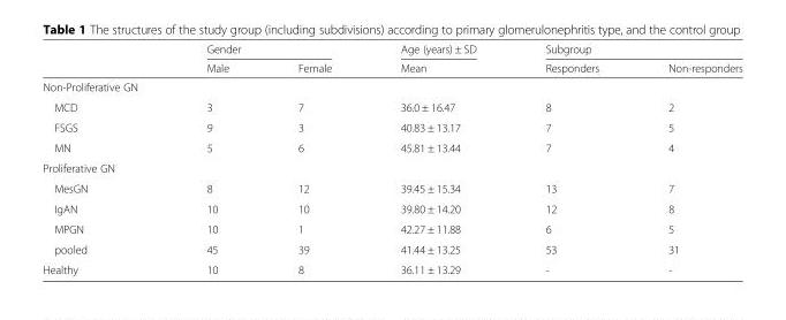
<table><thead><tr><td rowspan="2"></td><td colspan="2">Gender</td><td rowspan="2">Age (years) ± SD Mean</td><td colspan="2">Subgroup</td></tr><tr><td>Male</td><td>Female</td><td>Responders</td><td>Non-responders</td></tr></thead><tbody><tr><td colspan="6">Non-Proliferative GN</td></tr><tr><td>MCD</td><td>3</td><td>7</td><td>36.0 ± 16.47</td><td>8</td><td>2</td></tr><tr><td>FSGS</td><td>9</td><td>3</td><td>40.83 ± 13.17</td><td>7</td><td>5</td></tr><tr><td>MN</td><td>5</td><td>6</td><td>45.81 ± 13.44</td><td>7</td><td>4</td></tr><tr><td colspan="6">Proliferative GN</td></tr><tr><td>MesGN</td><td>8</td><td>12</td><td>39.45 ± 15.34</td><td>13</td><td>7</td></tr><tr><td>IgAN</td><td>10</td><td>10</td><td>39.80 ± 14.20</td><td>12</td><td>8</td></tr><tr><td>MPGN</td><td>10</td><td>1</td><td>42.27 ± 11.88</td><td>6</td><td>5</td></tr><tr><td>pooled</td><td>45</td><td>39</td><td>41.44 ± 13.25</td><td>53</td><td>31</td></tr><tr><td>Healthy</td><td>10</td><td>8</td><td>36.11 ± 13.29</td><td>-</td><td>-</td></tr></tbody></table>